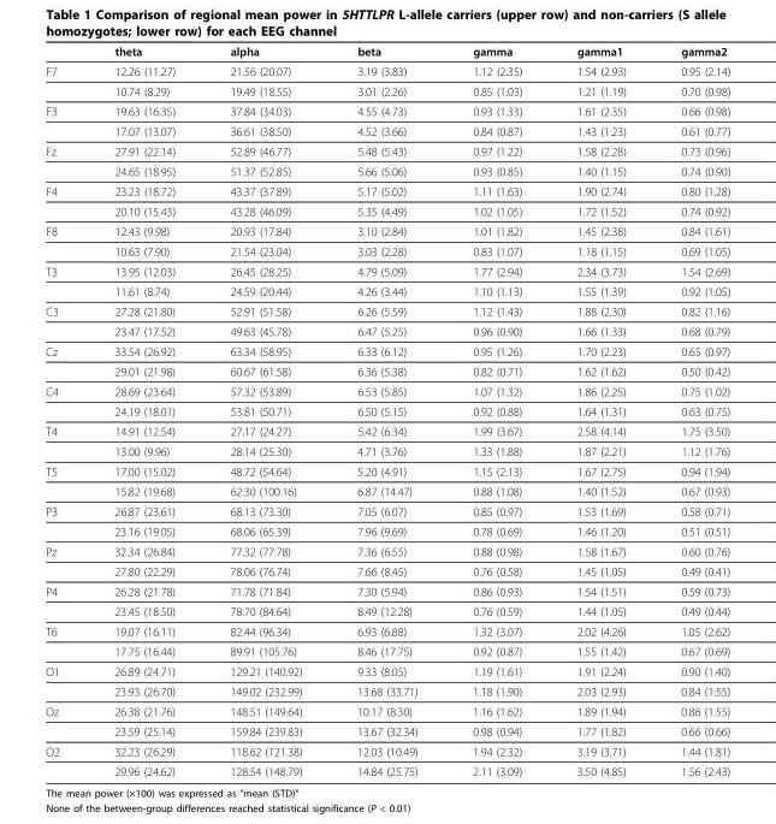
<table><thead><tr><td></td><td>theta</td><td>alpha</td><td>beta</td><td>gamma</td><td>gamma1</td><td>gamma2</td></tr></thead><tbody><tr><td rowspan="2">F7</td><td>12.26 (11.27)</td><td>21.56 (20.07)</td><td>3.19 (3.83)</td><td>1.12 (2.35)</td><td>1.54 (2.93)</td><td>0.95 (2.14)</td></tr><tr><td>10.74 (8.29)</td><td>19.49 (18.55)</td><td>3.01 (2.26)</td><td>0.85 (1.03)</td><td>1.21 (1.19)</td><td>0.70 (0.98)</td></tr><tr><td rowspan="2">F3</td><td>19.63 (16.35)</td><td>37.84 (34.03)</td><td>4.55 (4.73)</td><td>0.93 (1.33)</td><td>1.61 (2.35)</td><td>0.66 (0.98)</td></tr><tr><td>17.07 (13.07)</td><td>36.61 (38.50)</td><td>4.52 (3.66)</td><td>0.84 (0.87)</td><td>1.43 (1.23)</td><td>0.61 (0.77)</td></tr><tr><td rowspan="2">Fz</td><td>27.91 (22.14)</td><td>52.89 (46.77)</td><td>5.48 (5.43)</td><td>0.97 (1.22)</td><td>1.58 (2.28)</td><td>0.73 (0.96)</td></tr><tr><td>24.65 (18.95)</td><td>51.37 (52.85)</td><td>5.66 (5.06)</td><td>0.93 (0.85)</td><td>1.40 (1.15)</td><td>0.74 (0.90)</td></tr><tr><td rowspan="2">F4</td><td>23.23 (18.72)</td><td>43.37 (37.89)</td><td>5.17 (5.02)</td><td>1.11 (1.63)</td><td>1.90 (2.74)</td><td>0.80 (1.28)</td></tr><tr><td>20.10 (15.43)</td><td>43.28 (46.09)</td><td>5.35 (4.49)</td><td>1.02 (1.05)</td><td>1.72 (1.52)</td><td>0.74 (0.92)</td></tr><tr><td rowspan="2">F8</td><td>12.43 (9.98)</td><td>20.93 (17.84)</td><td>3.10 (2.84)</td><td>1.01 (1.82)</td><td>1.45 (2.38)</td><td>0.84 (1.61)</td></tr><tr><td>10.63 (7.90)</td><td>21.54 (23.04)</td><td>3.03 (2.28)</td><td>0.83 (1.07)</td><td>1.18 (1.15)</td><td>0.69 (1.05)</td></tr><tr><td rowspan="2">T3</td><td>13.95 (12.03)</td><td>26.45 (28.25)</td><td>4.79 (5.09)</td><td>1.77 (2.94)</td><td>2.34 (3.73)</td><td>1.54 (2.69)</td></tr><tr><td>11.61 (8.74)</td><td>24.59 (20.44)</td><td>4.26 (3.44)</td><td>1.10 (1.13)</td><td>1.55 (1.39)</td><td>0.92 (1.05)</td></tr><tr><td rowspan="2">C3</td><td>27.28 (21.80)</td><td>52.91 (51.58)</td><td>6.26 (5.59)</td><td>1.12 (1.43)</td><td>1.88 (2.30)</td><td>0.82 (1.16)</td></tr><tr><td>23.47 (17.52)</td><td>49.63 (45.78)</td><td>6.47 (5.25)</td><td>0.96 (0.90)</td><td>1.66 (1.33)</td><td>0.68 (0.79)</td></tr><tr><td rowspan="2">Cz</td><td>33.54 (26.92)</td><td>63.34 (58.95)</td><td>6.33 (6.12)</td><td>0.95 (1.26)</td><td>1.70 (2.23)</td><td>0.65 (0.97)</td></tr><tr><td>29.01 (21.98)</td><td>60.67 (61.58)</td><td>6.36 (5.38)</td><td>0.82 (0.71)</td><td>1.62 (1.62)</td><td>0.50 (0.42)</td></tr><tr><td rowspan="2">C4</td><td>28.69 (23.64)</td><td>57.32 (53.89)</td><td>6.53 (5.85)</td><td>1.07 (1.32)</td><td>1.86 (2.25)</td><td>0.75 (1.02)</td></tr><tr><td>24.19 (18.01)</td><td>53.81 (50.71)</td><td>6.50 (5.15)</td><td>0.92 (0.88)</td><td>1.64 (1.31)</td><td>0.63 (0.75)</td></tr><tr><td rowspan="2">T4</td><td>14.91 (12.54)</td><td>27.17 (24.27)</td><td>5.42 (6.34)</td><td>1.99 (3.67)</td><td>2.58 (4.14)</td><td>1.75 (3.50)</td></tr><tr><td>13.00 (9.96)</td><td>28.14 (25.30)</td><td>4.71 (3.76)</td><td>1.33 (1.88)</td><td>1.87 (2.21)</td><td>1.12 (1.76)</td></tr><tr><td rowspan="2">T5</td><td>17.00 (15.02)</td><td>48.72 (54.64)</td><td>5.20 (4.91)</td><td>1.15 (2.13)</td><td>1.67 (2.75)</td><td>0.94 (1.94)</td></tr><tr><td>15.82 (19.68)</td><td>62.30 (100.16)</td><td>6.87 (14.47)</td><td>0.88 (1.08)</td><td>1.40 (1.52)</td><td>0.67 (0.93)</td></tr><tr><td rowspan="2">P3</td><td>26.87 (23.61)</td><td>68.13 (73.30)</td><td>7.05 (6.07)</td><td>0.85 (0.97)</td><td>1.53 (1.69)</td><td>0.58 (0.71)</td></tr><tr><td>23.16 (19.05)</td><td>68.06 (65.39)</td><td>7.96 (9.69)</td><td>0.78 (0.69)</td><td>1.46 (1.20)</td><td>0.51 (0.51)</td></tr><tr><td rowspan="2">Pz</td><td>32.34 (26.84)</td><td>77.32 (77.78)</td><td>7.36 (6.55)</td><td>0.88 (0.98)</td><td>1.58 (1.67)</td><td>0.60 (0.76)</td></tr><tr><td>27.80 (22.29)</td><td>78.06 (76.74)</td><td>7.66 (8.45)</td><td>0.76 (0.58)</td><td>1.45 (1.05)</td><td>0.49 (0.41)</td></tr><tr><td rowspan="2">P4</td><td>26.28 (21.78)</td><td>71.78 (71.84)</td><td>7.30 (5.94)</td><td>0.86 (0.93)</td><td>1.54 (1.51)</td><td>0.59 (0.73)</td></tr><tr><td>23.45 (18.50)</td><td>78.70 (84.64)</td><td>8.49 (12.28)</td><td>0.76 (0.59)</td><td>1.44 (1.05)</td><td>0.49 (0.44)</td></tr><tr><td rowspan="2">T6</td><td>19.07 (16.11)</td><td>82.44 (96.34)</td><td>6.93 (6.88)</td><td>1.32 (3.07)</td><td>2.02 (4.26)</td><td>1.05 (2.62)</td></tr><tr><td>17.75 (16.44)</td><td>89.91 (105.76)</td><td>8.46 (17.75)</td><td>0.92 (0.87)</td><td>1.55 (1.42)</td><td>0.67 (0.69)</td></tr><tr><td rowspan="2">O1</td><td>26.89 (24.71)</td><td>129.21 (140.92)</td><td>9.33 (8.05)</td><td>1.19 (1.61)</td><td>1.91 (2.24)</td><td>0.90 (1.40)</td></tr><tr><td>23.93 (26.70)</td><td>149.02 (232.99)</td><td>13.68 (33.71)</td><td>1.18 (1.90)</td><td>2.03 (2.93)</td><td>0.84 (1.55)</td></tr><tr><td rowspan="2">Oz</td><td>26.38 (21.76)</td><td>148.51 (149.64)</td><td>10.17 (8.30)</td><td>1.16 (1.62)</td><td>1.89 (1.94)</td><td>0.86 (1.55)</td></tr><tr><td>23.59 (25.14)</td><td>159.84 (239.83)</td><td>13.67 (32.34)</td><td>0.98 (0.94)</td><td>1.77 (1.82)</td><td>0.66 (0.66)</td></tr><tr><td rowspan="2">O2</td><td>32.23 (26.29)</td><td>118.62 (121.38)</td><td>12.03 (10.49)</td><td>1.94 (2.32)</td><td>3.19 (3.71)</td><td>1.44 (1.81)</td></tr><tr><td>29.96 (24.62)</td><td>128.54 (148.79)</td><td>14.84 (25.75)</td><td>2.11 (3.09)</td><td>3.50 (4.85)</td><td>1.56 (2.43)</td></tr></tbody></table>